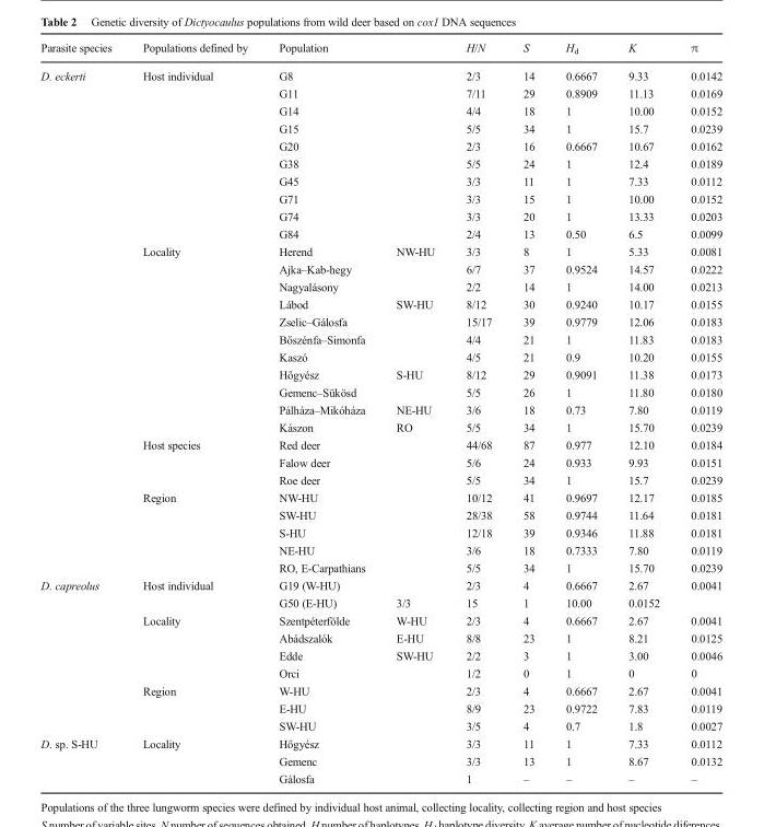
<table><thead><tr><td>Parasite species</td><td>Populations defined by</td><td colspan="2">Population</td><td>H/N</td><td>S</td><td>H<sub>d</sub></td><td>K</td><td>π</td></tr></thead><tbody><tr><td rowspan="29">D. eckerti</td><td rowspan="10">Host individual</td><td colspan="2">G8</td><td>2/3</td><td>14</td><td>0.6667</td><td>9.33</td><td>0.0142</td></tr><tr><td colspan="2">G11</td><td>7/11</td><td>29</td><td>0.8909</td><td>11.13</td><td>0.0169</td></tr><tr><td colspan="2">G14</td><td>4/4</td><td>18</td><td>1</td><td>10.00</td><td>0.0152</td></tr><tr><td colspan="2">G15</td><td>5/5</td><td>34</td><td>1</td><td>15.7</td><td>0.0239</td></tr><tr><td colspan="2">G20</td><td>2/3</td><td>16</td><td>0.6667</td><td>10.67</td><td>0.0162</td></tr><tr><td colspan="2">G38</td><td>5/5</td><td>24</td><td>1</td><td>12.4</td><td>0.0189</td></tr><tr><td colspan="2">G45</td><td>3/3</td><td>11</td><td>1</td><td>7.33</td><td>0.0112</td></tr><tr><td colspan="2">G71</td><td>3/3</td><td>15</td><td>1</td><td>10.00</td><td>0.0152</td></tr><tr><td colspan="2">G74</td><td>3/3</td><td>20</td><td>1</td><td>13.33</td><td>0.0203</td></tr><tr><td colspan="2">G84</td><td>2/4</td><td>13</td><td>0.50</td><td>6.5</td><td>0.0099</td></tr><tr><td rowspan="11">Locality</td><td>Herend</td><td rowspan="3">NW-HU</td><td>3/3</td><td>8</td><td>1</td><td>5.33</td><td>0.0081</td></tr><tr><td>Ajka–Kab-hegy</td><td>6/7</td><td>37</td><td>0.9524</td><td>14.57</td><td>0.0222</td></tr><tr><td>Nagyalásony</td><td>2/2</td><td>14</td><td>1</td><td>14.00</td><td>0.0213</td></tr><tr><td>Lábod</td><td rowspan="4">SW-HU</td><td>8/12</td><td>30</td><td>0.9240</td><td>10.17</td><td>0.0155</td></tr><tr><td>Zselic–Gálosfa</td><td>15/17</td><td>39</td><td>0.9779</td><td>12.06</td><td>0.0183</td></tr><tr><td>Bőszénfa–Simonfa</td><td>4/4</td><td>21</td><td>1</td><td>11.83</td><td>0.0183</td></tr><tr><td>Kaszó</td><td>4/5</td><td>21</td><td>0.9</td><td>10.20</td><td>0.0155</td></tr><tr><td>Hőgyész</td><td rowspan="2">S-HU</td><td>8/12</td><td>29</td><td>0.9091</td><td>11.38</td><td>0.0173</td></tr><tr><td>Gemenc–Sükösd</td><td>5/5</td><td>26</td><td>1</td><td>11.80</td><td>0.0180</td></tr><tr><td>Pálháza–Mikóháza</td><td>NE-HU</td><td>3/6</td><td>18</td><td>0.73</td><td>7.80</td><td>0.0119</td></tr><tr><td>Kászon</td><td>RO</td><td>5/5</td><td>34</td><td>1</td><td>15.70</td><td>0.0239</td></tr><tr><td rowspan="3">Host species</td><td colspan="2">Red deer</td><td>44/68</td><td>87</td><td>0.977</td><td>12.10</td><td>0.0184</td></tr><tr><td colspan="2">Falow deer</td><td>5/6</td><td>24</td><td>0.933</td><td>9.93</td><td>0.0151</td></tr><tr><td colspan="2">Roe deer</td><td>5/5</td><td>34</td><td>1</td><td>15.7</td><td>0.0239</td></tr><tr><td rowspan="5">Region</td><td colspan="2">NW-HU</td><td>10/12</td><td>41</td><td>0.9697</td><td>12.17</td><td>0.0185</td></tr><tr><td colspan="2">SW-HU</td><td>28/38</td><td>58</td><td>0.9744</td><td>11.64</td><td>0.0181</td></tr><tr><td colspan="2">S-HU</td><td>12/18</td><td>39</td><td>0.9346</td><td>11.88</td><td>0.0181</td></tr><tr><td colspan="2">NE-HU</td><td>3/6</td><td>18</td><td>0.7333</td><td>7.80</td><td>0.0119</td></tr><tr><td colspan="2">RO, E-Carpathians</td><td>5/5</td><td>34</td><td>1</td><td>15.70</td><td>0.0239</td></tr><tr><td rowspan="9">D. capreolus</td><td rowspan="2">Host individual</td><td colspan="2">G19 (W-HU)</td><td>2/3</td><td>4</td><td>0.6667</td><td>2.67</td><td>0.0041</td></tr><tr><td>G50 (E-HU)</td><td>3/3</td><td>15</td><td>1</td><td>10.00</td><td>0.0152</td><td></td></tr><tr><td rowspan="4">Locality</td><td>Szentpéterfölde</td><td>W-HU</td><td>2/3</td><td>4</td><td>0.6667</td><td>2.67</td><td>0.0041</td></tr><tr><td>Abádszalók</td><td>E-HU</td><td>8/8</td><td>23</td><td>1</td><td>8.21</td><td>0.0125</td></tr><tr><td>Edde</td><td rowspan="2">SW-HU</td><td>2/2</td><td>3</td><td>1</td><td>3.00</td><td>0.0046</td></tr><tr><td>Orci</td><td>1/2</td><td>0</td><td>1</td><td>0</td><td>0</td></tr><tr><td rowspan="3">Region</td><td colspan="2">W-HU</td><td>2/3</td><td>4</td><td>0.6667</td><td>2.67</td><td>0.0041</td></tr><tr><td colspan="2">E-HU</td><td>8/9</td><td>23</td><td>0.9722</td><td>7.83</td><td>0.0119</td></tr><tr><td colspan="2">SW-HU</td><td>3/5</td><td>4</td><td>0.7</td><td>1.8</td><td>0.0027</td></tr><tr><td rowspan="3">D. sp. S-HU</td><td rowspan="3">Locality</td><td colspan="2">Hőgyész</td><td>3/3</td><td>11</td><td>1</td><td>7.33</td><td>0.0112</td></tr><tr><td colspan="2">Gemenc</td><td>3/3</td><td>13</td><td>1</td><td>8.67</td><td>0.0132</td></tr><tr><td colspan="2">Gálosfa</td><td>1</td><td>–</td><td>–</td><td>–</td><td>–</td></tr></tbody></table>